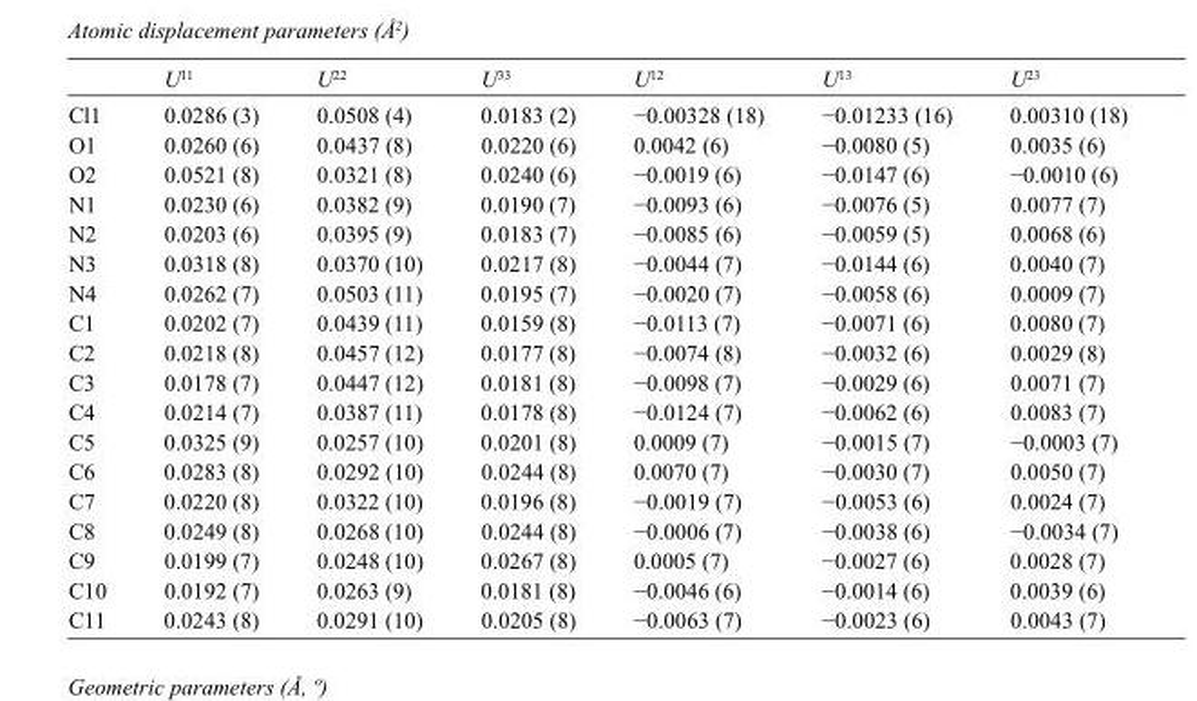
<table><thead><tr><td></td><td>U<sup>11</sup></td><td>U<sup>22</sup></td><td>U<sup>33</sup></td><td>U<sup>12</sup></td><td>U<sup>13</sup></td><td>U<sup>23</sup></td></tr></thead><tbody><tr><td>Cl1</td><td>0.0286 (3)</td><td>0.0508 (4)</td><td>0.0183 (2)</td><td>−0.00328 (18)</td><td>−0.01233 (16)</td><td>0.00310 (18)</td></tr><tr><td>O1</td><td>0.0260 (6)</td><td>0.0437 (8)</td><td>0.0220 (6)</td><td>0.0042 (6)</td><td>−0.0080 (5)</td><td>0.0035 (6)</td></tr><tr><td>O2</td><td>0.0521 (8)</td><td>0.0321 (8)</td><td>0.0240 (6)</td><td>−0.0019 (6)</td><td>−0.0147 (6)</td><td>−0.0010 (6)</td></tr><tr><td>N1</td><td>0.0230 (6)</td><td>0.0382 (9)</td><td>0.0190 (7)</td><td>−0.0093 (6)</td><td>−0.0076 (5)</td><td>0.0077 (7)</td></tr><tr><td>N2</td><td>0.0203 (6)</td><td>0.0395 (9)</td><td>0.0183 (7)</td><td>−0.0085 (6)</td><td>−0.0059 (5)</td><td>0.0068 (6)</td></tr><tr><td>N3</td><td>0.0318 (8)</td><td>0.0370 (10)</td><td>0.0217 (8)</td><td>−0.0044 (7)</td><td>−0.0144 (6)</td><td>0.0040 (7)</td></tr><tr><td>N4</td><td>0.0262 (7)</td><td>0.0503 (11)</td><td>0.0195 (7)</td><td>−0.0020 (7)</td><td>−0.0058 (6)</td><td>0.0009 (7)</td></tr><tr><td>C1</td><td>0.0202 (7)</td><td>0.0439 (11)</td><td>0.0159 (8)</td><td>−0.0113 (7)</td><td>−0.0071 (6)</td><td>0.0080 (7)</td></tr><tr><td>C2</td><td>0.0218 (8)</td><td>0.0457 (12)</td><td>0.0177 (8)</td><td>−0.0074 (8)</td><td>−0.0032 (6)</td><td>0.0029 (8)</td></tr><tr><td>C3</td><td>0.0178 (7)</td><td>0.0447 (12)</td><td>0.0181 (8)</td><td>−0.0098 (7)</td><td>−0.0029 (6)</td><td>0.0071 (7)</td></tr><tr><td>C4</td><td>0.0214 (7)</td><td>0.0387 (11)</td><td>0.0178 (8)</td><td>−0.0124 (7)</td><td>−0.0062 (6)</td><td>0.0083 (7)</td></tr><tr><td>C5</td><td>0.0325 (9)</td><td>0.0257 (10)</td><td>0.0201 (8)</td><td>0.0009 (7)</td><td>−0.0015 (7)</td><td>−0.0003 (7)</td></tr><tr><td>C6</td><td>0.0283 (8)</td><td>0.0292 (10)</td><td>0.0244 (8)</td><td>0.0070 (7)</td><td>−0.0030 (7)</td><td>0.0050 (7)</td></tr><tr><td>C7</td><td>0.0220 (8)</td><td>0.0322 (10)</td><td>0.0196 (8)</td><td>−0.0019 (7)</td><td>−0.0053 (6)</td><td>0.0024 (7)</td></tr><tr><td>C8</td><td>0.0249 (8)</td><td>0.0268 (10)</td><td>0.0244 (8)</td><td>−0.0006 (7)</td><td>−0.0038 (6)</td><td>−0.0034 (7)</td></tr><tr><td>C9</td><td>0.0199 (7)</td><td>0.0248 (10)</td><td>0.0267 (8)</td><td>0.0005 (7)</td><td>−0.0027 (6)</td><td>0.0028 (7)</td></tr><tr><td>C10</td><td>0.0192 (7)</td><td>0.0263 (9)</td><td>0.0181 (8)</td><td>−0.0046 (6)</td><td>−0.0014 (6)</td><td>0.0039 (6)</td></tr><tr><td>C11</td><td>0.0243 (8)</td><td>0.0291 (10)</td><td>0.0205 (8)</td><td>−0.0063 (7)</td><td>−0.0023 (6)</td><td>0.0043 (7)</td></tr></tbody></table>